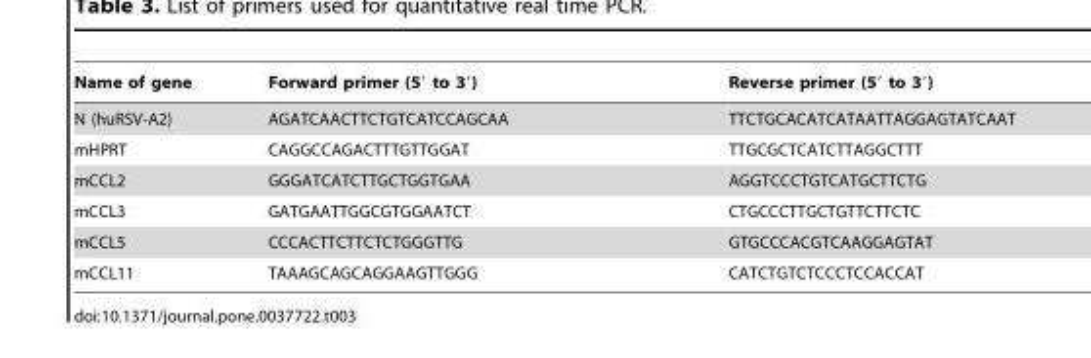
<table><thead><tr><td>Name of gene</td><td>Forward primer (5′ to 3′)</td><td>Reverse primer (5′ to 3′)</td></tr></thead><tbody><tr><td>N (huRSV-A2)</td><td>AGATCAACTTCTGTCATCCAGCAA</td><td>TTCTGCACATCATAATTAGGAGTATCAAT</td></tr><tr><td>mHPRT</td><td>CAGGCCAGACTTTGTTGGAT</td><td>TTGCGCTCATCTTAGGCTTT</td></tr><tr><td>mCCL2</td><td>GGGATCATCTTGCTGGTGAA</td><td>AGGTCCCTGTCATGCTTCTG</td></tr><tr><td>mCCL3</td><td>GATGAATTGGCGTGGAATCT</td><td>CTGCCCTTGCTGTTCTTCTC</td></tr><tr><td>mCCL5</td><td>CCCACTTCTTCTCTGGGTTG</td><td>GTGCCCACGTCAAGGAGTAT</td></tr><tr><td>mCCL11</td><td>TAAAGCAGCAGGAAGTTGGG</td><td>CATCTGTCTCCCTCCACCAT</td></tr></tbody></table>